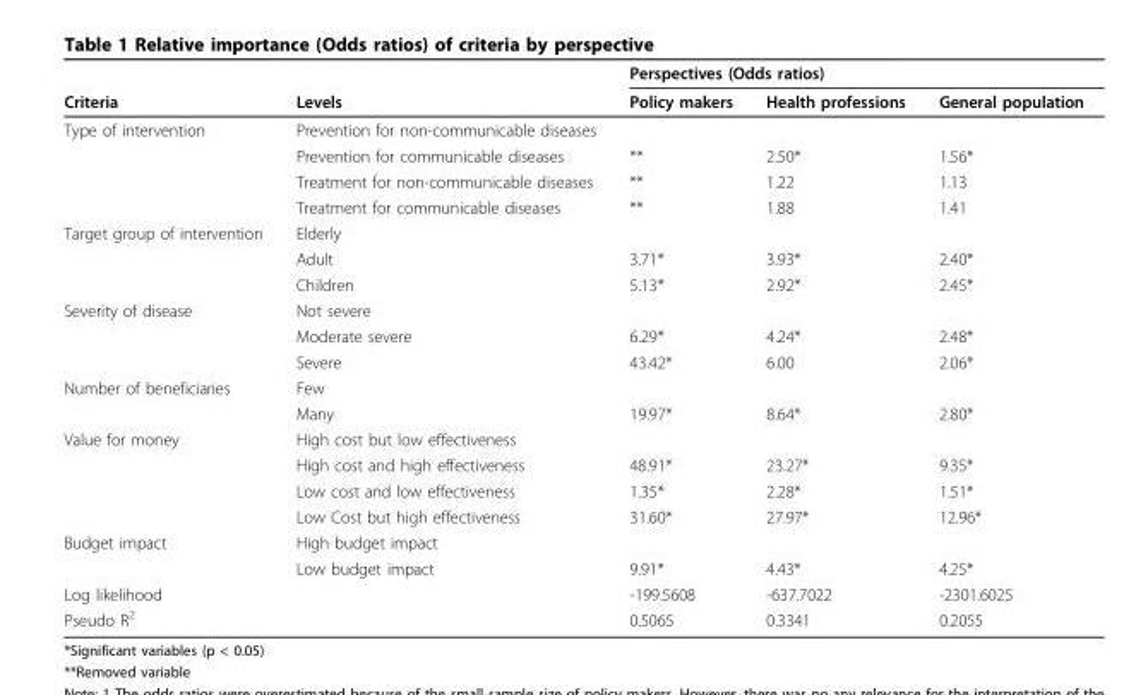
<table><thead><tr><td rowspan="2">Criteria</td><td rowspan="2">Levels</td><td colspan="3">Perspectives (Odds ratios)</td></tr><tr><td>Policy makers</td><td>Health professions</td><td>General population</td></tr></thead><tbody><tr><td rowspan="4">Type of intervention</td><td>Prevention for non-communicable diseases</td><td></td><td></td><td></td></tr><tr><td>Prevention for communicable diseases</td><td>**</td><td>2.50*</td><td>1.56*</td></tr><tr><td>Treatment for non-communicable diseases</td><td>**</td><td>1.22</td><td>1.13</td></tr><tr><td>Treatment for communicable diseases</td><td>**</td><td>1.88</td><td>1.41</td></tr><tr><td rowspan="3">Target group of intervention</td><td>Elderly</td><td></td><td></td><td></td></tr><tr><td>Adult</td><td>3.71*</td><td>3.93*</td><td>2.40*</td></tr><tr><td>Children</td><td>5.13*</td><td>2.92*</td><td>2.45*</td></tr><tr><td rowspan="3">Severity of disease</td><td>Not severe</td><td></td><td></td><td></td></tr><tr><td>Moderate severe</td><td>6.29*</td><td>4.24*</td><td>2.48*</td></tr><tr><td>Severe</td><td>43.42*</td><td>6.00</td><td>2.06*</td></tr><tr><td rowspan="2">Number of beneficiaries</td><td>Few</td><td></td><td></td><td></td></tr><tr><td>Many</td><td>19.97*</td><td>8.64*</td><td>2.80*</td></tr><tr><td rowspan="4">Value for money</td><td>High cost but low effectiveness</td><td></td><td></td><td></td></tr><tr><td>High cost and high effectiveness</td><td>48.91*</td><td>23.27*</td><td>9.35*</td></tr><tr><td>Low cost and low effectiveness</td><td>1.35*</td><td>2.28*</td><td>1.51*</td></tr><tr><td>Low Cost but high effectiveness</td><td>31.60*</td><td>27.97*</td><td>12.96*</td></tr><tr><td rowspan="2">Budget impact</td><td>High budget impact</td><td></td><td></td><td></td></tr><tr><td>Low budget impact</td><td>9.91*</td><td>4.43*</td><td>4.25*</td></tr><tr><td>Log likelihood</td><td></td><td>-199.5608</td><td>-637.7022</td><td>-2301.6025</td></tr><tr><td>Pseudo R<sup>2</sup></td><td></td><td>0.5065</td><td>0.3341</td><td>0.2055</td></tr></tbody></table>